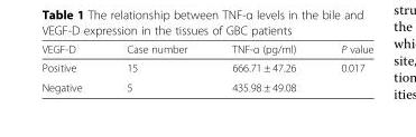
<table><thead><tr><td>VEGF-D</td><td>Case number</td><td>TNF-α (pg/ml)</td><td>P value</td></tr></thead><tbody><tr><td>Positive</td><td>15</td><td>666.71 ± 47.26</td><td rowspan="2">0.017</td></tr><tr><td>Negative</td><td>5</td><td>435.98 ± 49.08</td></tr></tbody></table>